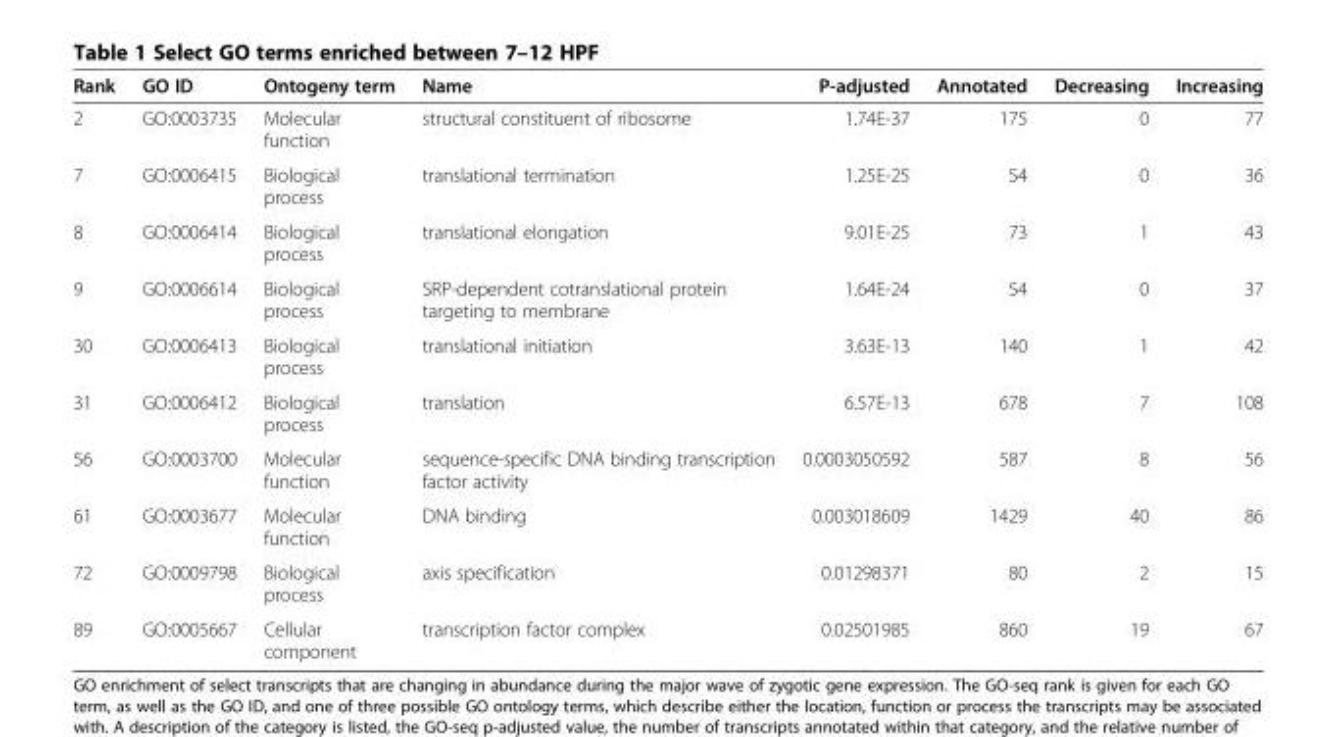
<table><thead><tr><td>Rank</td><td>GO ID</td><td>Ontogeny term</td><td>Name</td><td>P-adjusted</td><td>Annotated</td><td>Decreasing</td><td>Increasing</td></tr></thead><tbody><tr><td>2</td><td>GO:0003735</td><td>Molecular function</td><td>structural constituent of ribosome</td><td>1.74E-37</td><td>175</td><td>0</td><td>77</td></tr><tr><td>7</td><td>GO:0006415</td><td>Biological process</td><td>translational termination</td><td>1.25E-25</td><td>54</td><td>0</td><td>36</td></tr><tr><td>8</td><td>GO:0006414</td><td>Biological process</td><td>translational elongation</td><td>9.01E-25</td><td>73</td><td>1</td><td>43</td></tr><tr><td>9</td><td>GO:0006614</td><td>Biological process</td><td>SRP-dependent cotranslational protein targeting to membrane</td><td>1.64E-24</td><td>54</td><td>0</td><td>37</td></tr><tr><td>30</td><td>GO:0006413</td><td>Biological process</td><td>translational initiation</td><td>3.63E-13</td><td>140</td><td>1</td><td>42</td></tr><tr><td>31</td><td>GO:0006412</td><td>Biological process</td><td>translation</td><td>6.57E-13</td><td>678</td><td>7</td><td>108</td></tr><tr><td>56</td><td>GO:0003700</td><td>Molecular function</td><td>sequence-specific DNA binding transcription factor activity</td><td>0.0003050592</td><td>587</td><td>8</td><td>56</td></tr><tr><td>61</td><td>GO:0003677</td><td>Molecular function</td><td>DNA binding</td><td>0.003018609</td><td>1429</td><td>40</td><td>86</td></tr><tr><td>72</td><td>GO:0009798</td><td>Biological process</td><td>axis specification</td><td>0.01298371</td><td>80</td><td>2</td><td>15</td></tr><tr><td>89</td><td>GO:0005667</td><td>Cellular component</td><td>transcription factor complex</td><td>0.02501985</td><td>860</td><td>19</td><td>67</td></tr></tbody></table>